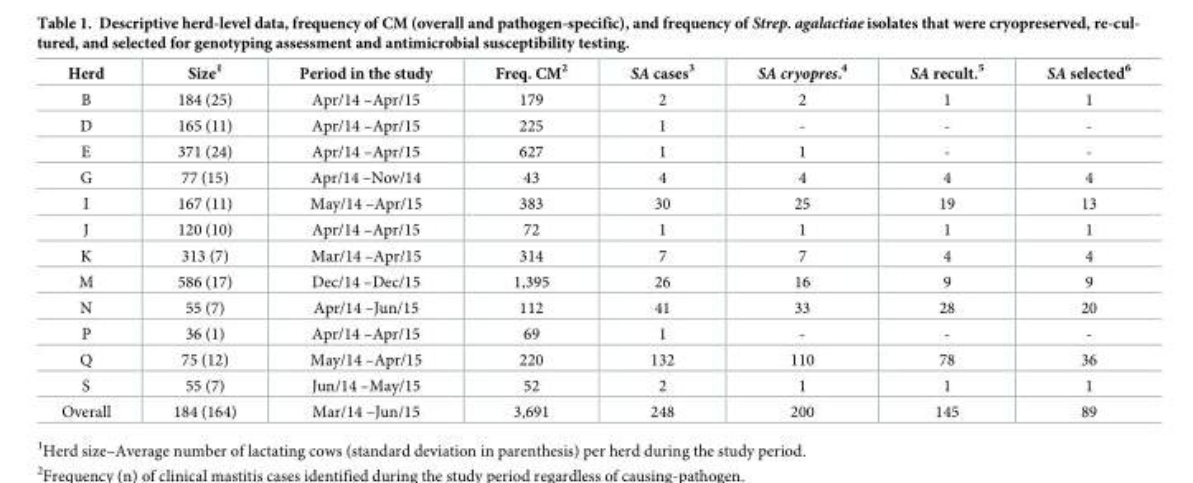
<table><thead><tr><td>Herd</td><td>Size<sup>1</sup></td><td>Period in the study</td><td>Freq. CM<sup>2</sup></td><td>SA cases<sup>3</sup></td><td>SA cryopres.<sup>4</sup></td><td>SA recult.<sup>5</sup></td><td>SA selected<sup>6</sup></td></tr></thead><tbody><tr><td>B</td><td>184 (25)</td><td>Apr/14 –Apr/15</td><td>179</td><td>2</td><td>2</td><td>1</td><td>1</td></tr><tr><td>D</td><td>165 (11)</td><td>Apr/14 –Apr/15</td><td>225</td><td>1</td><td>-</td><td>-</td><td>-</td></tr><tr><td>E</td><td>371 (24)</td><td>Apr/14 –Apr/15</td><td>627</td><td>1</td><td>1</td><td>-</td><td>-</td></tr><tr><td>G</td><td>77 (15)</td><td>Apr/14 –Nov/14</td><td>43</td><td>4</td><td>4</td><td>4</td><td>4</td></tr><tr><td>I</td><td>167 (11)</td><td>May/14 –Apr/15</td><td>383</td><td>30</td><td>25</td><td>19</td><td>13</td></tr><tr><td>J</td><td>120 (10)</td><td>Apr/14 –Apr/15</td><td>72</td><td>1</td><td>1</td><td>1</td><td>1</td></tr><tr><td>K</td><td>313 (7)</td><td>Mar/14 –Apr/15</td><td>314</td><td>7</td><td>7</td><td>4</td><td>4</td></tr><tr><td>M</td><td>586 (17)</td><td>Dec/14 –Dec/15</td><td>1,395</td><td>26</td><td>16</td><td>9</td><td>9</td></tr><tr><td>N</td><td>55 (7)</td><td>Apr/14 –Jun/15</td><td>112</td><td>41</td><td>33</td><td>28</td><td>20</td></tr><tr><td>P</td><td>36 (1)</td><td>Apr/14 –Apr/15</td><td>69</td><td>1</td><td>-</td><td>-</td><td>-</td></tr><tr><td>Q</td><td>75 (12)</td><td>May/14 –Apr/15</td><td>220</td><td>132</td><td>110</td><td>78</td><td>36</td></tr><tr><td>S</td><td>55 (7)</td><td>Jun/14 –May/15</td><td>52</td><td>2</td><td>1</td><td>1</td><td>1</td></tr><tr><td>Overall</td><td>184 (164)</td><td>Mar/14 –Jun/15</td><td>3,691</td><td>248</td><td>200</td><td>145</td><td>89</td></tr></tbody></table>